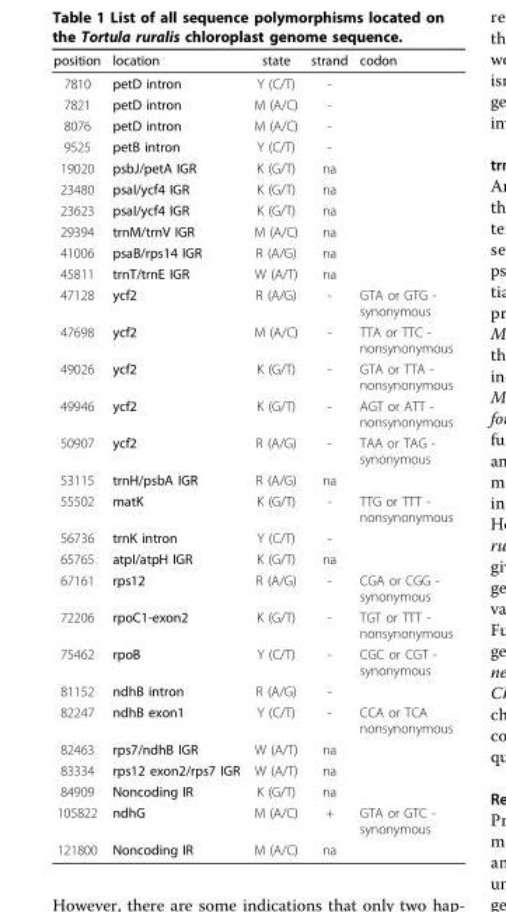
<table><thead><tr><td>position</td><td>location</td><td>state</td><td>strand</td><td>codon</td></tr></thead><tbody><tr><td>7810</td><td>petD intron</td><td>Y (C/T)</td><td>-</td><td></td></tr><tr><td>7821</td><td>petD intron</td><td>M (A/C)</td><td>-</td><td></td></tr><tr><td>8076</td><td>petD intron</td><td>M (A/C)</td><td>-</td><td></td></tr><tr><td>9525</td><td>petB intron</td><td>Y (C/T)</td><td>-</td><td></td></tr><tr><td>19020</td><td>psbJ/petA IGR</td><td>K (G/T)</td><td>na</td><td></td></tr><tr><td>23480</td><td>psaI/ycf4 IGR</td><td>K (G/T)</td><td>na</td><td></td></tr><tr><td>23623</td><td>psaI/ycf4 IGR</td><td>K (G/T)</td><td>na</td><td></td></tr><tr><td>29394</td><td>trnM/trnV IGR</td><td>M (A/C)</td><td>na</td><td></td></tr><tr><td>41006</td><td>psaB/rps14 IGR</td><td>R (A/G)</td><td>na</td><td></td></tr><tr><td>45811</td><td>trnT/trnE IGR</td><td>W (A/T)</td><td>na</td><td></td></tr><tr><td>47128</td><td>ycf2</td><td>R (A/G)</td><td>-</td><td>GTA or GTG - synonymous</td></tr><tr><td>47698</td><td>ycf2</td><td>M (A/C)</td><td>-</td><td>TTA or TTC - nonsynonymous</td></tr><tr><td>49026</td><td>ycf2</td><td>K (G/T)</td><td>-</td><td>GTA or TTA - nonsynonymous</td></tr><tr><td>49946</td><td>ycf2</td><td>K (G/T)</td><td>-</td><td>AGT or ATT - nonsynonymous</td></tr><tr><td>50907</td><td>ycf2</td><td>R (A/G)</td><td>-</td><td>TAA or TAG - synonymous</td></tr><tr><td>53115</td><td>trnH/psbA IGR</td><td>R (A/G)</td><td>na</td><td></td></tr><tr><td>55502</td><td>matK</td><td>K (G/T)</td><td>-</td><td>TTG or TTT - nonsynonymous</td></tr><tr><td>56736</td><td>trnK intron</td><td>Y (C/T)</td><td>-</td><td></td></tr><tr><td>65765</td><td>atpI/atpH IGR</td><td>K (G/T)</td><td>na</td><td></td></tr><tr><td>67161</td><td>rps12</td><td>R (A/G)</td><td>-</td><td>CGA or CGG - synonymous</td></tr><tr><td>72206</td><td>rpoC1-exon2</td><td>K (G/T)</td><td>-</td><td>TGT or TTT - nonsynonymous</td></tr><tr><td>75462</td><td>rpoB</td><td>Y (C/T)</td><td>-</td><td>CGC or CGT - synonymous</td></tr><tr><td>81152</td><td>ndhB intron</td><td>R (A/G)</td><td>-</td><td></td></tr><tr><td>82247</td><td>ndhB exon1</td><td>Y (C/T)</td><td>-</td><td>CCA or TCA nonsynonymous</td></tr><tr><td>82463</td><td>rps7/ndhB IGR</td><td>W (A/T)</td><td>na</td><td></td></tr><tr><td>83334</td><td>rps12 exon2/rps7 IGR</td><td>W (A/T)</td><td>na</td><td></td></tr><tr><td>84909</td><td>Noncoding IR</td><td>K (G/T)</td><td>na</td><td></td></tr><tr><td>105822</td><td>ndhG</td><td>M (A/C)</td><td>+</td><td>GTA or GTC - synonymous</td></tr><tr><td>121800</td><td>Noncoding IR</td><td>M (A/C)</td><td>na</td><td></td></tr></tbody></table>